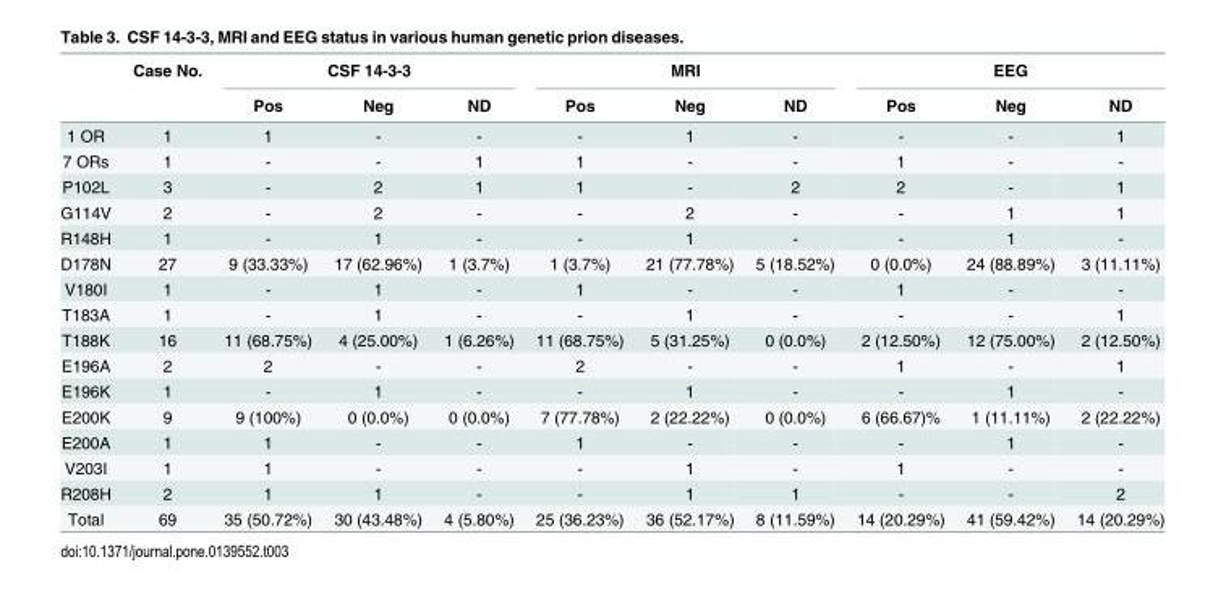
<table><thead><tr><td rowspan="2"></td><td rowspan="2">Case No.</td><td colspan="3">CSF 14-3-3</td><td colspan="3">MRI</td><td colspan="3">EEG</td></tr><tr><td>Pos</td><td>Neg</td><td>ND</td><td>Pos</td><td>Neg</td><td>ND</td><td>Pos</td><td>Neg</td><td>ND</td></tr></thead><tbody><tr><td>1 OR</td><td>1</td><td>1</td><td>-</td><td>-</td><td>-</td><td>1</td><td>-</td><td>-</td><td>-</td><td>1</td></tr><tr><td>7 ORs</td><td>1</td><td>-</td><td>-</td><td>1</td><td>1</td><td>-</td><td>-</td><td>1</td><td>-</td><td>-</td></tr><tr><td>P102L</td><td>3</td><td>-</td><td>2</td><td>1</td><td>1</td><td>-</td><td>2</td><td>2</td><td>-</td><td>1</td></tr><tr><td>G114V</td><td>2</td><td>-</td><td>2</td><td>-</td><td>-</td><td>2</td><td>-</td><td>-</td><td>1</td><td>1</td></tr><tr><td>R148H</td><td>1</td><td>-</td><td>1</td><td>-</td><td>-</td><td>1</td><td>-</td><td>-</td><td>1</td><td>-</td></tr><tr><td>D178N</td><td>27</td><td>9 (33.33%)</td><td>17 (62.96%)</td><td>1 (3.7%)</td><td>1 (3.7%)</td><td>21 (77.78%)</td><td>5 (18.52%)</td><td>0 (0.0%)</td><td>24 (88.89%)</td><td>3 (11.11%)</td></tr><tr><td>V180I</td><td>1</td><td>-</td><td>1</td><td>-</td><td>1</td><td>-</td><td>-</td><td>1</td><td>-</td><td>-</td></tr><tr><td>T183A</td><td>1</td><td>-</td><td>1</td><td>-</td><td>-</td><td>1</td><td>-</td><td>-</td><td>-</td><td>1</td></tr><tr><td>T188K</td><td>16</td><td>11 (68.75%)</td><td>4 (25.00%)</td><td>1 (6.26%)</td><td>11 (68.75%)</td><td>5 (31.25%)</td><td>0 (0.0%)</td><td>2 (12.50%)</td><td>12 (75.00%)</td><td>2 (12.50%)</td></tr><tr><td>E196A</td><td>2</td><td>2</td><td>-</td><td>-</td><td>2</td><td>-</td><td>-</td><td>1</td><td>-</td><td>1</td></tr><tr><td>E196K</td><td>1</td><td>-</td><td>1</td><td>-</td><td>-</td><td>1</td><td>-</td><td>-</td><td>1</td><td>-</td></tr><tr><td>E200K</td><td>9</td><td>9 (100%)</td><td>0 (0.0%)</td><td>0 (0.0%)</td><td>7 (77.78%)</td><td>2 (22.22%)</td><td>0 (0.0%)</td><td>6 (66.67)%</td><td>1 (11.11%)</td><td>2 (22.22%)</td></tr><tr><td>E200A</td><td>1</td><td>1</td><td>-</td><td>-</td><td>1</td><td>-</td><td>-</td><td>-</td><td>1</td><td>-</td></tr><tr><td>V203I</td><td>1</td><td>1</td><td>-</td><td>-</td><td>-</td><td>1</td><td>-</td><td>1</td><td>-</td><td>-</td></tr><tr><td>R208H</td><td>2</td><td>1</td><td>1</td><td>-</td><td>-</td><td>1</td><td>1</td><td>-</td><td>-</td><td>2</td></tr><tr><td>Total</td><td>69</td><td>35 (50.72%)</td><td>30 (43.48%)</td><td>4 (5.80%)</td><td>25 (36.23%)</td><td>36 (52.17%)</td><td>8 (11.59%)</td><td>14 (20.29%)</td><td>41 (59.42%)</td><td>14 (20.29%)</td></tr></tbody></table>